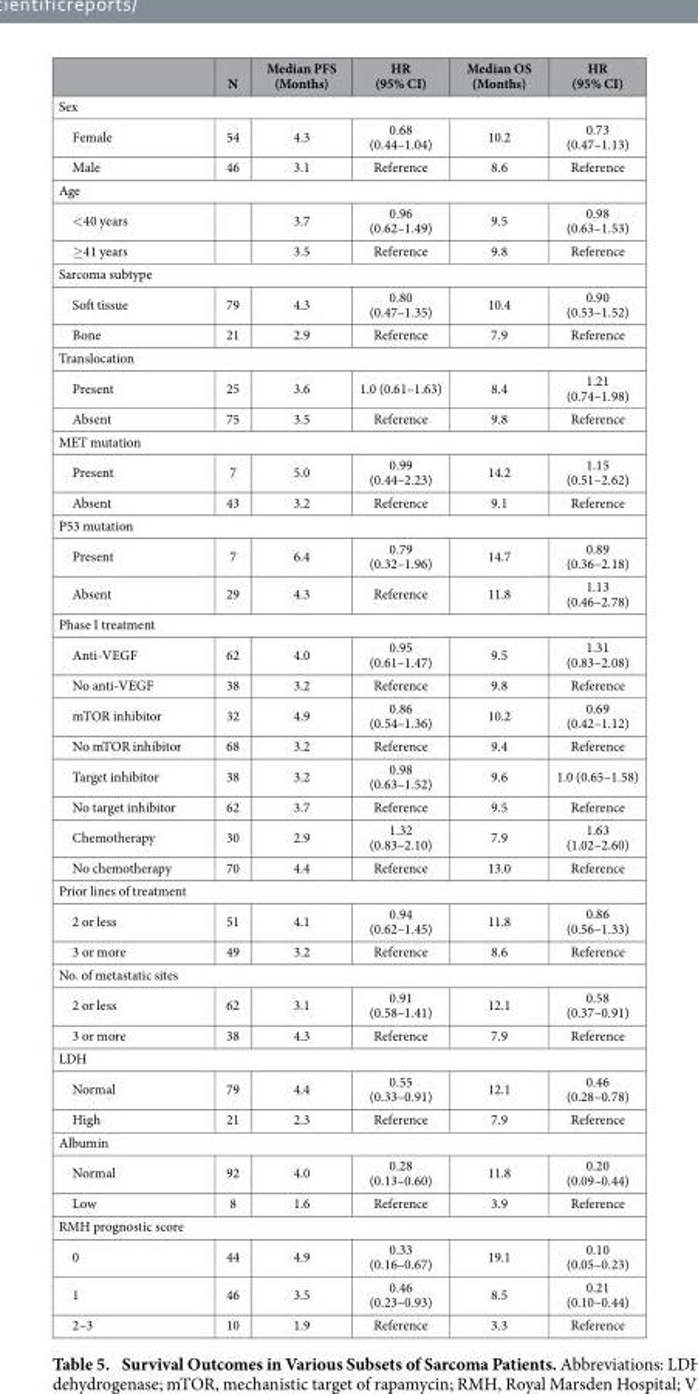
<table><thead><tr><td></td><td>N</td><td>Median PFS (Months)</td><td>HR (95% CI)</td><td>Median OS (Months)</td><td>HR (95% CI)</td></tr></thead><tbody><tr><td colspan="6">Sex</td></tr><tr><td>Female</td><td>54</td><td>4.3</td><td>0.68 (0.44–1.04)</td><td>10.2</td><td>0.73 (0.47–1.13)</td></tr><tr><td>Male</td><td>46</td><td>3.1</td><td>Reference</td><td>8.6</td><td>Reference</td></tr><tr><td colspan="6">Age</td></tr><tr><td>&lt; 40 years</td><td></td><td>3.7</td><td>0.96 (0.62–1.49)</td><td>9.5</td><td>0.98 (0.63–1.53)</td></tr><tr><td>≥ 41 years</td><td></td><td>3.5</td><td>Reference</td><td>9.8</td><td>Reference</td></tr><tr><td colspan="6">Sarcoma subtype</td></tr><tr><td>Soft tissue</td><td>79</td><td>4.3</td><td>0.80 (0.47–1.35)</td><td>10.4</td><td>0.90 (0.53–1.52)</td></tr><tr><td>Bone</td><td>21</td><td>2.9</td><td>Reference</td><td>7.9</td><td>Reference</td></tr><tr><td colspan="6">Translocation</td></tr><tr><td>Present</td><td>25</td><td>3.6</td><td>1.0 (0.61–1.63)</td><td>8.4</td><td>1.21 (0.74–1.98)</td></tr><tr><td>Absent</td><td>75</td><td>3.5</td><td>Reference</td><td>9.8</td><td>Reference</td></tr><tr><td colspan="6">MET mutation</td></tr><tr><td>Present</td><td>7</td><td>5.0</td><td>0.99 (0.44–2.23)</td><td>14.2</td><td>1.15 (0.51–2.62)</td></tr><tr><td>Absent</td><td>43</td><td>3.2</td><td>Reference</td><td>9.1</td><td>Reference</td></tr><tr><td colspan="6">P53 mutation</td></tr><tr><td>Present</td><td>7</td><td>6.4</td><td>0.79 (0.32–1.96)</td><td>14.7</td><td>0.89 (0.36–2.18)</td></tr><tr><td>Absent</td><td>29</td><td>4.3</td><td>Reference</td><td>11.8</td><td>1.13 (0.46–2.78)</td></tr><tr><td colspan="6">Phase I treatment</td></tr><tr><td>Anti-VEGF</td><td>62</td><td>4.0</td><td>0.95 (0.61–1.47)</td><td>9.5</td><td>1.31 (0.83–2.08)</td></tr><tr><td>No anti-VEGF</td><td>38</td><td>3.2</td><td>Reference</td><td>9.8</td><td>Reference</td></tr><tr><td>mTOR inhibitor</td><td>32</td><td>4.9</td><td>0.86 (0.54–1.36)</td><td>10.2</td><td>0.69 (0.42–1.12)</td></tr><tr><td>No mTOR inhibitor</td><td>68</td><td>3.2</td><td>Reference</td><td>9.4</td><td>Reference</td></tr><tr><td>Target inhibitor</td><td>38</td><td>3.2</td><td>0.98 (0.63–1.52)</td><td>9.6</td><td>1.0 (0.65–1.58)</td></tr><tr><td>No target inhibitor</td><td>62</td><td>3.7</td><td>Reference</td><td>9.5</td><td>Reference</td></tr><tr><td>Chemotherapy</td><td>30</td><td>2.9</td><td>1.32 (0.83–2.10)</td><td>7.9</td><td>1.63 (1.02–2.60)</td></tr><tr><td>No chemotherapy</td><td>70</td><td>4.4</td><td>Reference</td><td>13.0</td><td>Reference</td></tr><tr><td colspan="6">Prior lines of treatment</td></tr><tr><td>2 or less</td><td>51</td><td>4.1</td><td>0.94 (0.62–1.45)</td><td>11.8</td><td>0.86 (0.56–1.33)</td></tr><tr><td>3 or more</td><td>49</td><td>3.2</td><td>Reference</td><td>8.6</td><td>Reference</td></tr><tr><td colspan="6">No. of metastatic sites</td></tr><tr><td>2 or less</td><td>62</td><td>3.1</td><td>0.91 (0.58–1.41)</td><td>12.1</td><td>0.58 (0.37–0.91)</td></tr><tr><td>3 or more</td><td>38</td><td>4.3</td><td>Reference</td><td>7.9</td><td>Reference</td></tr><tr><td colspan="6">LDH</td></tr><tr><td>Normal</td><td>79</td><td>4.4</td><td>0.55 (0.33–0.91)</td><td>12.1</td><td>0.46 (0.28–0.78)</td></tr><tr><td>High</td><td>21</td><td>2.3</td><td>Reference</td><td>7.9</td><td>Reference</td></tr><tr><td colspan="6">Albumin</td></tr><tr><td>Normal</td><td>92</td><td>4.0</td><td>0.28 (0.13–0.60)</td><td>11.8</td><td>0.20 (0.09–0.44)</td></tr><tr><td>Low</td><td>8</td><td>1.6</td><td>Reference</td><td>3.9</td><td>Reference</td></tr><tr><td colspan="6">RMH prognostic score</td></tr><tr><td>0</td><td>44</td><td>4.9</td><td>0.33 (0.16–0.67)</td><td>19.1</td><td>0.10 (0.05–0.23)</td></tr><tr><td>1</td><td>46</td><td>3.5</td><td>0.46 (0.23–0.93)</td><td>8.5</td><td>0.21 (0.10–0.44)</td></tr><tr><td>2–3</td><td>10</td><td>1.9</td><td>Reference</td><td>3.3</td><td>Reference</td></tr></tbody></table>